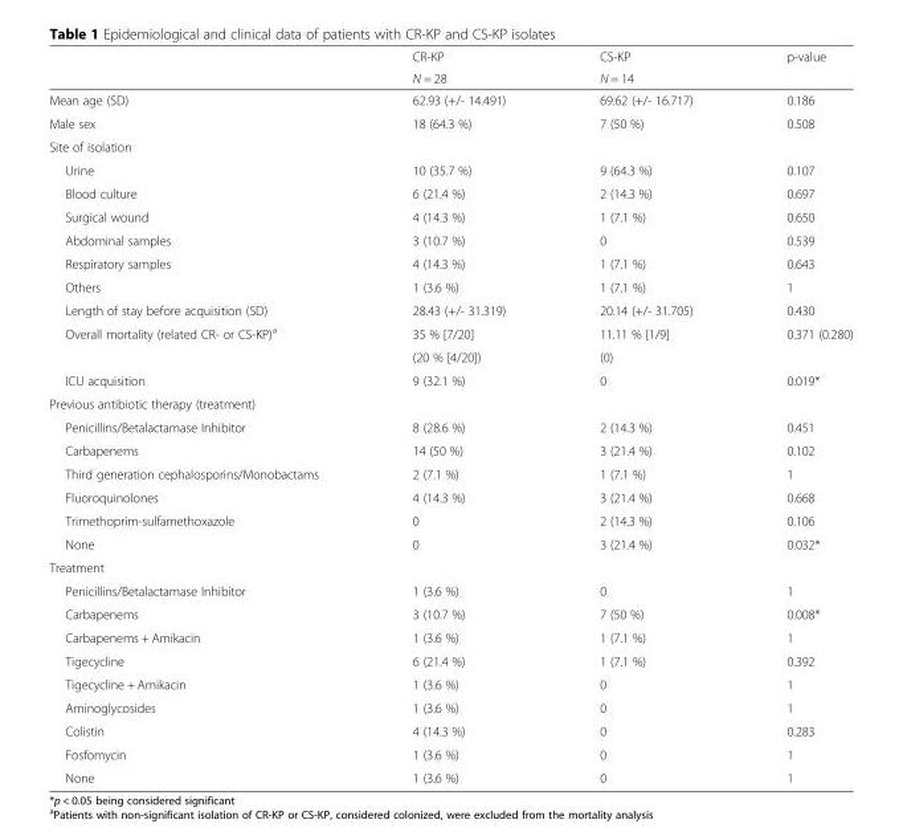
<table><thead><tr><td rowspan="2"></td><td rowspan="2">CR-KP N = 28</td><td rowspan="2">CS-KP N = 14</td><td rowspan="2">p-value</td></tr><tr></tr></thead><tbody><tr><td>Mean age (SD)</td><td>62.93 (+/- 14.491)</td><td>69.62 (+/- 16.717)</td><td>0.186</td></tr><tr><td>Male sex</td><td>18 (64.3 %)</td><td>7 (50 %)</td><td>0.508</td></tr><tr><td colspan="4">Site of isolation</td></tr><tr><td>Urine</td><td>10 (35.7 %)</td><td>9 (64.3 %)</td><td>0.107</td></tr><tr><td>Blood culture</td><td>6 (21.4 %)</td><td>2 (14.3 %)</td><td>0.697</td></tr><tr><td>Surgical wound</td><td>4 (14.3 %)</td><td>1 (7.1 %)</td><td>0.650</td></tr><tr><td>Abdominal samples</td><td>3 (10.7 %)</td><td>0</td><td>0.539</td></tr><tr><td>Respiratory samples</td><td>4 (14.3 %)</td><td>1 (7.1 %)</td><td>0.643</td></tr><tr><td>Others</td><td>1 (3.6 %)</td><td>1 (7.1 %)</td><td>1</td></tr><tr><td>Length of stay before acquisition (SD)</td><td>28.43 (+/- 31.319)</td><td>20.14 (+/- 31.705)</td><td>0.430</td></tr><tr><td rowspan="2">Overall mortality (related CR- or CS-KP)<sup>a</sup></td><td>35 % [7/20]</td><td>11.11 % [1/9]</td><td rowspan="2">0.371 (0.280)</td></tr><tr><td>(20 % [4/20])</td><td>(0)</td></tr><tr><td>ICU acquisition</td><td>9 (32.1 %)</td><td>0</td><td>0.019*</td></tr><tr><td colspan="4">Previous antibiotic therapy (treatment)</td></tr><tr><td>Penicillins/Betalactamase Inhibitor</td><td>8 (28.6 %)</td><td>2 (14.3 %)</td><td>0.451</td></tr><tr><td>Carbapenems</td><td>14 (50 %)</td><td>3 (21.4 %)</td><td>0.102</td></tr><tr><td>Third generation cephalosporins/Monobactams</td><td>2 (7.1 %)</td><td>1 (7.1 %)</td><td>1</td></tr><tr><td>Fluoroquinolones</td><td>4 (14.3 %)</td><td>3 (21.4 %)</td><td>0.668</td></tr><tr><td>Trimethoprim-sulfamethoxazole</td><td>0</td><td>2 (14.3 %)</td><td>0.106</td></tr><tr><td>None</td><td>0</td><td>3 (21.4 %)</td><td>0.032*</td></tr><tr><td colspan="4">Treatment</td></tr><tr><td>Penicillins/Betalactamase Inhibitor</td><td>1 (3.6 %)</td><td>0</td><td>1</td></tr><tr><td>Carbapenems</td><td>3 (10.7 %)</td><td>7 (50 %)</td><td>0.008*</td></tr><tr><td>Carbapenems + Amikacin</td><td>1 (3.6 %)</td><td>1 (7.1 %)</td><td>1</td></tr><tr><td>Tigecycline</td><td>6 (21.4 %)</td><td>1 (7.1 %)</td><td>0.392</td></tr><tr><td>Tigecycline + Amikacin</td><td>1 (3.6 %)</td><td>0</td><td>1</td></tr><tr><td>Aminoglycosides</td><td>1 (3.6 %)</td><td>0</td><td>1</td></tr><tr><td>Colistin</td><td>4 (14.3 %)</td><td>0</td><td>0.283</td></tr><tr><td>Fosfomycin</td><td>1 (3.6 %)</td><td>0</td><td>1</td></tr><tr><td>None</td><td>1 (3.6 %)</td><td>0</td><td>1</td></tr></tbody></table>